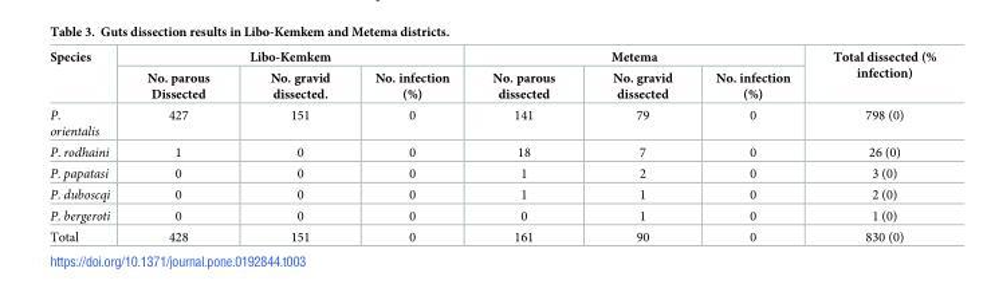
<table><thead><tr><td rowspan="2">Species</td><td colspan="3">Libo-Kemkem</td><td colspan="3">Metema</td><td rowspan="2">Total dissected (% infection)</td></tr><tr><td>No. parous Dissected</td><td>No. gravid dissected.</td><td>No. infection (%)</td><td>No. parous dissected</td><td>No. gravid dissected</td><td>No. infection (%)</td></tr></thead><tbody><tr><td>P. orientalis</td><td>427</td><td>151</td><td>0</td><td>141</td><td>79</td><td>0</td><td>798 (0)</td></tr><tr><td>P. rodhaini</td><td>1</td><td>0</td><td>0</td><td>18</td><td>7</td><td>0</td><td>26 (0)</td></tr><tr><td>P. papatasi</td><td>0</td><td>0</td><td>0</td><td>1</td><td>2</td><td>0</td><td>3 (0)</td></tr><tr><td>P. duboscqi</td><td>0</td><td>0</td><td>0</td><td>1</td><td>1</td><td>0</td><td>2 (0)</td></tr><tr><td>P. bergeroti</td><td>0</td><td>0</td><td>0</td><td>0</td><td>1</td><td>0</td><td>1 (0)</td></tr><tr><td>Total</td><td>428</td><td>151</td><td>0</td><td>161</td><td>90</td><td>0</td><td>830 (0)</td></tr></tbody></table>